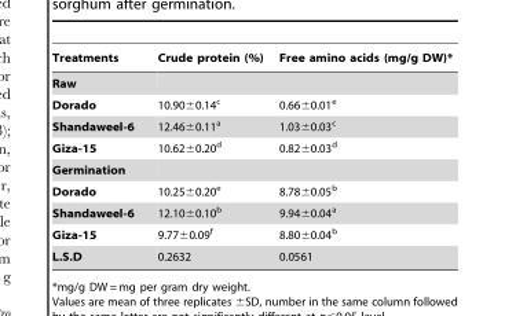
<table><thead><tr><td>Treatments</td><td>Crude protein (%)</td><td>Free amino acids (mg/g DW)*</td></tr></thead><tbody><tr><td colspan="3">Raw</td></tr><tr><td>Dorado</td><td>10.90±0.14<sup>c</sup></td><td>0.66±0.01<sup>e</sup></td></tr><tr><td>Shandaweel-6</td><td>12.46±0.11<sup>a</sup></td><td>1.03±0.03<sup>c</sup></td></tr><tr><td>Giza-15</td><td>10.62±0.20<sup>d</sup></td><td>0.82±0.03<sup>d</sup></td></tr><tr><td colspan="3">Germination</td></tr><tr><td>Dorado</td><td>10.25±0.20<sup>e</sup></td><td>8.78±0.05<sup>b</sup></td></tr><tr><td>Shandaweel-6</td><td>12.10±0.10<sup>b</sup></td><td>9.94±0.04<sup>a</sup></td></tr><tr><td>Giza-15</td><td>9.77±0.09<sup>f</sup></td><td>8.80±0.04<sup>b</sup></td></tr><tr><td>L.S.D</td><td>0.2632</td><td>0.0561</td></tr></tbody></table>